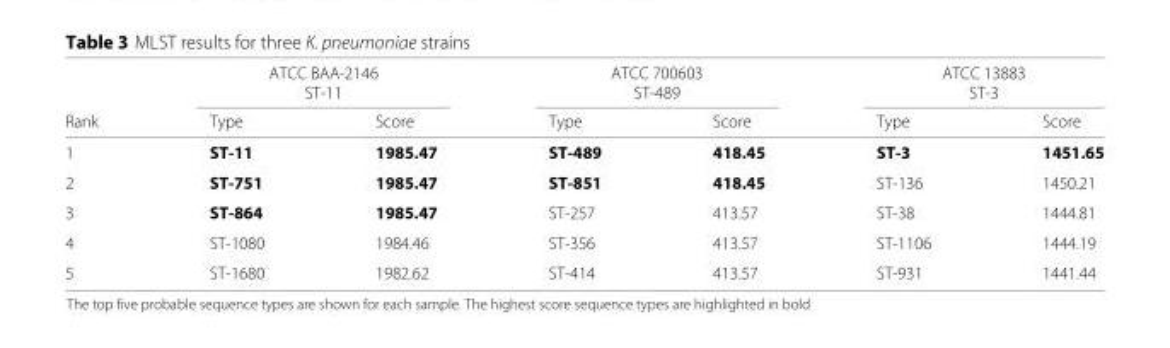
<table><thead><tr><td rowspan="3">Rank</td><td rowspan="2" colspan="2">ATCC BAA-2146 ST-11</td><td rowspan="2" colspan="2">ATCC 700603 ST-489</td><td rowspan="2" colspan="2">ATCC 13883 ST-3</td></tr><tr></tr><tr><td>Type</td><td>Score</td><td>Type</td><td>Score</td><td>Type</td><td>Score</td></tr></thead><tbody><tr><td>1</td><td>ST-11</td><td>1985.47</td><td>ST-489</td><td>418.45</td><td>ST-3</td><td>1451.65</td></tr><tr><td>2</td><td>ST-751</td><td>1985.47</td><td>ST-851</td><td>418.45</td><td>ST-136</td><td>1450.21</td></tr><tr><td>3</td><td>ST-864</td><td>1985.47</td><td>ST-257</td><td>413.57</td><td>ST-38</td><td>1444.81</td></tr><tr><td>4</td><td>ST-1080</td><td>1984.46</td><td>ST-356</td><td>413.57</td><td>ST-1106</td><td>1444.19</td></tr><tr><td>5</td><td>ST-1680</td><td>1982.62</td><td>ST-414</td><td>413.57</td><td>ST-931</td><td>1441.44</td></tr></tbody></table>